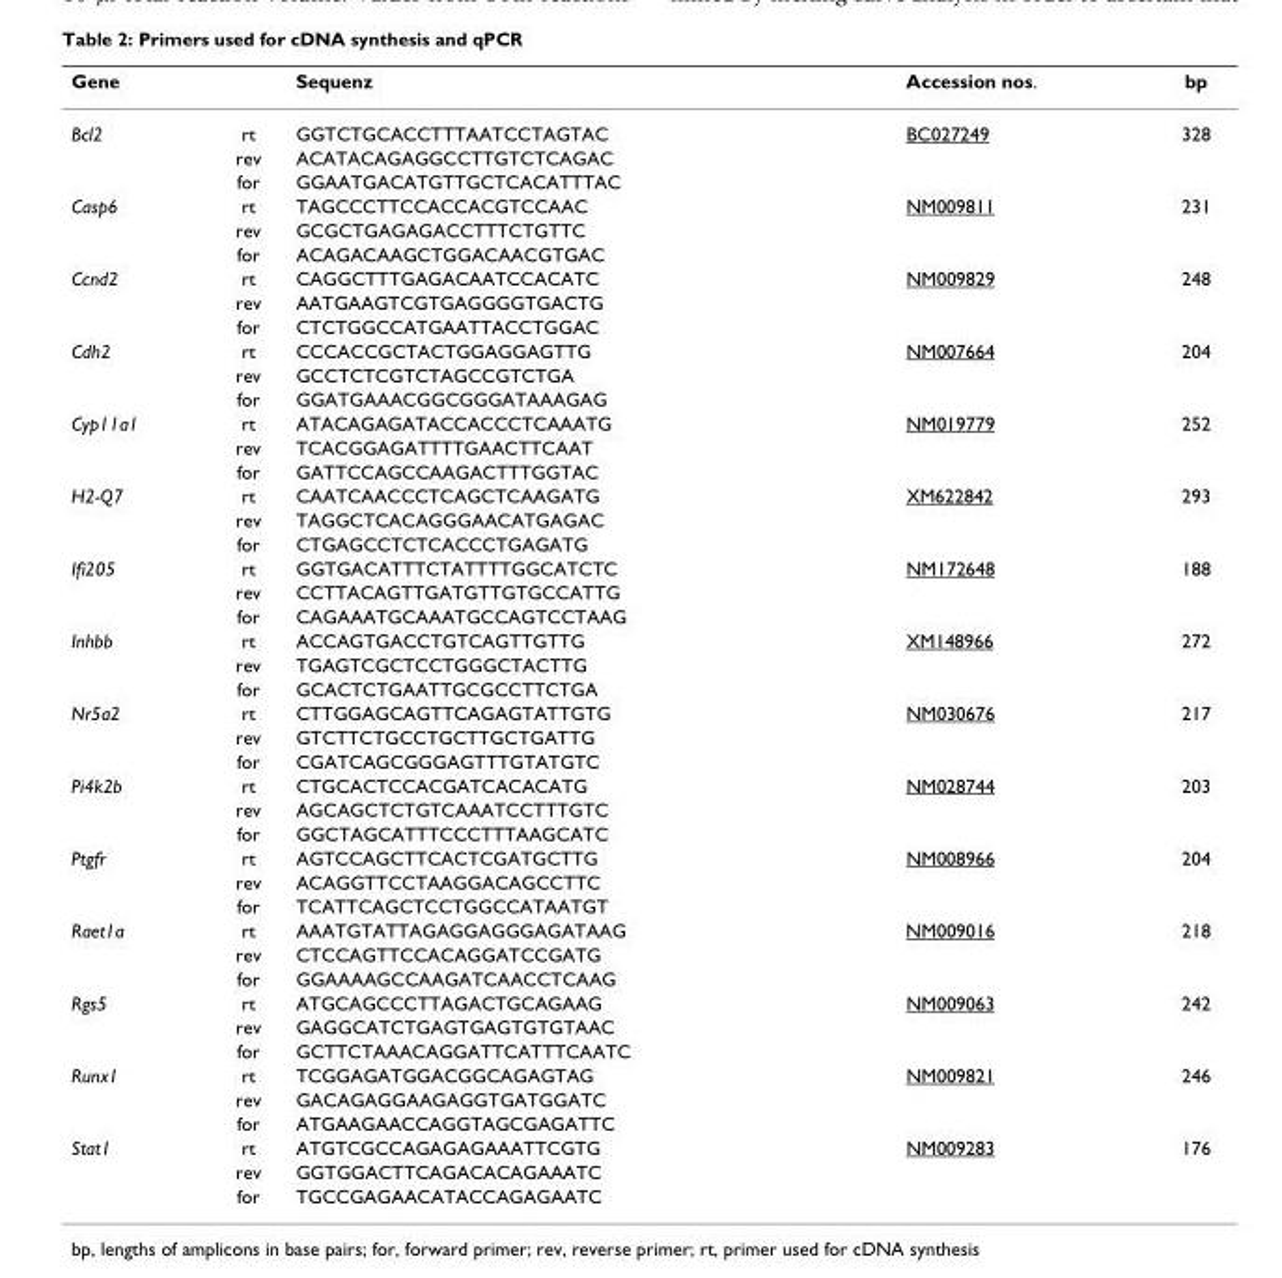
<table><thead><tr><td>Gene</td><td></td><td>Sequenz</td><td>Accession nos.</td><td>bp</td></tr></thead><tbody><tr><td rowspan="3">Bcl2</td><td>rt</td><td>GGTCTGCACCTTTAATCCTAGTAC</td><td>BC027249</td><td>328</td></tr><tr><td>rev</td><td>ACATACAGAGGCCTTGTCTCAGAC</td><td></td><td></td></tr><tr><td>for</td><td>GGAATGACATGTTGCTCACATTTAC</td><td></td><td></td></tr><tr><td rowspan="3">Casp6</td><td>rt</td><td>TAGCCCTTCCACCACGTCCAAC</td><td>NM009811</td><td>231</td></tr><tr><td>rev</td><td>GCGCTGAGAGACCTTTCTGTTC</td><td></td><td></td></tr><tr><td>for</td><td>ACAGACAAGCTGGACAACGTGAC</td><td></td><td></td></tr><tr><td rowspan="3">Ccnd2</td><td>rt</td><td>CAGGCTTTGAGACAATCCACATC</td><td>NM009829</td><td>248</td></tr><tr><td>rev</td><td>AATGAAGTCGTGAGGGGTGACTG</td><td></td><td></td></tr><tr><td>for</td><td>CTCTGGCCATGAATTACCTGGAC</td><td></td><td></td></tr><tr><td rowspan="3">Cdh2</td><td>rt</td><td>CCCACCGCTACTGGAGGAGTTG</td><td>NM007664</td><td>204</td></tr><tr><td>rev</td><td>GCCTCTCGTCTAGCCGTCTGA</td><td></td><td></td></tr><tr><td>for</td><td>GGATGAAACGGCGGGATAAAGAG</td><td></td><td></td></tr><tr><td rowspan="3">Cyp11a1</td><td>rt</td><td>ATACAGAGATACCACCCTCAAATG</td><td>NM019779</td><td>252</td></tr><tr><td>rev</td><td>TCACGGAGATTTTGAACTTCAAT</td><td></td><td></td></tr><tr><td>for</td><td>GATTCCAGCCAAGACTTTGGTAC</td><td></td><td></td></tr><tr><td rowspan="3">H2-Q7</td><td>rt</td><td>CAATCAACCCTCAGCTCAAGATG</td><td>XM622842</td><td>293</td></tr><tr><td>rev</td><td>TAGGCTCACAGGGAACATGAGAC</td><td></td><td></td></tr><tr><td>for</td><td>CTGAGCCTCTCACCCTGAGATG</td><td></td><td></td></tr><tr><td rowspan="3">Ifi205</td><td>rt</td><td>GGTGACATTTCTATTTTGGCATCTC</td><td>NM172648</td><td>188</td></tr><tr><td>rev</td><td>CCTTACAGTTGATGTTGTGCCATTG</td><td></td><td></td></tr><tr><td>for</td><td>CAGAAATGCAAATGCCAGTCCTAAG</td><td></td><td></td></tr><tr><td rowspan="3">Inhbb</td><td>rt</td><td>ACCAGTGACCTGTCAGTTGTTG</td><td>XM148966</td><td>272</td></tr><tr><td>rev</td><td>TGAGTCGCTCCTGGGCTACTTG</td><td></td><td></td></tr><tr><td>for</td><td>GCACTCTGAATTGCGCCTTCTGA</td><td></td><td></td></tr><tr><td rowspan="3">Nr5a2</td><td>rt</td><td>CTTGGAGCAGTTCAGAGTATTGTG</td><td>NM030676</td><td>217</td></tr><tr><td>rev</td><td>GTCTTCTGCCTGCTTGCTGATTG</td><td></td><td></td></tr><tr><td>for</td><td>CGATCAGCGGGAGTTTGTATGTC</td><td></td><td></td></tr><tr><td rowspan="3">Pi4k2b</td><td>rt</td><td>CTGCACTCCACGATCACACATG</td><td>NM028744</td><td>203</td></tr><tr><td>rev</td><td>AGCAGCTCTGTCAAATCCTTTGTC</td><td></td><td></td></tr><tr><td>for</td><td>GGCTAGCATTTCCCTTTAAGCATC</td><td></td><td></td></tr><tr><td rowspan="3">Ptgfr</td><td>rt</td><td>AGTCCAGCTTCACTCGATGCTTG</td><td>NM008966</td><td>204</td></tr><tr><td>rev</td><td>ACAGGTTCCTAAGGACAGCCTTC</td><td></td><td></td></tr><tr><td>for</td><td>TCATTCAGCTCCTGGCCATAATGT</td><td></td><td></td></tr><tr><td rowspan="3">Raet1a</td><td>rt</td><td>AAATGTATTAGAGGAGGGAGATAAG</td><td>NM009016</td><td>218</td></tr><tr><td>rev</td><td>CTCCAGTTCCACAGGATCCGATG</td><td></td><td></td></tr><tr><td>for</td><td>GGAAAAGCCAAGATCAACCTCAAG</td><td></td><td></td></tr><tr><td rowspan="3">Rgs5</td><td>rt</td><td>ATGCAGCCCTTAGACTGCAGAAG</td><td>NM009063</td><td>242</td></tr><tr><td>rev</td><td>GAGGCATCTGAGTGAGTGTGTAAC</td><td></td><td></td></tr><tr><td>for</td><td>GCTTCTAAACAGGATTCATTTCAATC</td><td></td><td></td></tr><tr><td rowspan="3">Runx1</td><td>rt</td><td>TCGGAGATGGACGGCAGAGTAG</td><td>NM009821</td><td>246</td></tr><tr><td>rev</td><td>GACAGAGGAAGAGGTGATGGATC</td><td></td><td></td></tr><tr><td>for</td><td>ATGAAGAACCAGGTAGCGAGATTC</td><td></td><td></td></tr><tr><td rowspan="3">Stat1</td><td>rt</td><td>ATGTCGCCAGAGAGAAATTCGTG</td><td>NM009283</td><td>176</td></tr><tr><td>rev</td><td>GGTGGACTTCAGACACAGAAATC</td><td></td><td></td></tr><tr><td>for</td><td>TGCCGAGAACATACCAGAGAATC</td><td></td><td></td></tr></tbody></table>